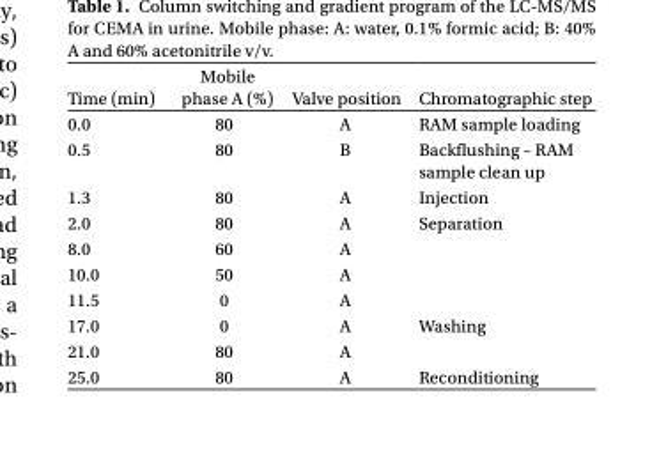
<table><thead><tr><td>Time (min)</td><td>Mobile phase A (%)</td><td>Valve position</td><td>Chromatographic step</td></tr></thead><tbody><tr><td>0.0</td><td>80</td><td>A</td><td>RAM sample loading</td></tr><tr><td>0.5</td><td>80</td><td>B</td><td>Backflushing – RAM sample clean up</td></tr><tr><td>1.3</td><td>80</td><td>A</td><td>Injection</td></tr><tr><td>2.0</td><td>80</td><td>A</td><td>Separation</td></tr><tr><td>8.0</td><td>60</td><td>A</td><td></td></tr><tr><td>10.0</td><td>50</td><td>A</td><td></td></tr><tr><td>11.5</td><td>0</td><td>A</td><td></td></tr><tr><td>17.0</td><td>0</td><td>A</td><td>Washing</td></tr><tr><td>21.0</td><td>80</td><td>A</td><td></td></tr><tr><td>25.0</td><td>80</td><td>A</td><td>Reconditioning</td></tr></tbody></table>